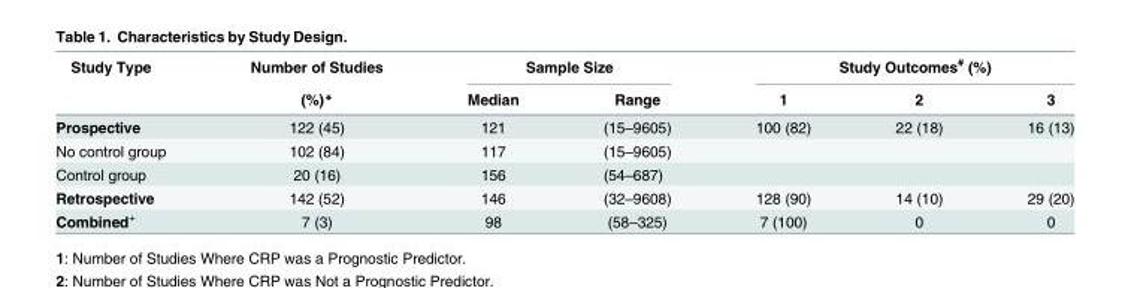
<table><thead><tr><td rowspan="2">Study Type</td><td rowspan="2">Number of Studies (%)*</td><td colspan="2">Sample Size</td><td colspan="3">Study Outcomes<sup>#</sup> (%)</td></tr><tr><td>Median</td><td>Range</td><td>1</td><td>2</td><td>3</td></tr></thead><tbody><tr><td>Prospective</td><td>122 (45)</td><td>121</td><td>(15–9605)</td><td>100 (82)</td><td>22 (18)</td><td>16 (13)</td></tr><tr><td>No control group</td><td>102 (84)</td><td>117</td><td>(15–9605)</td><td></td><td></td><td></td></tr><tr><td>Control group</td><td>20 (16)</td><td>156</td><td>(54–687)</td><td></td><td></td><td></td></tr><tr><td>Retrospective</td><td>142 (52)</td><td>146</td><td>(32–9608)</td><td>128 (90)</td><td>14 (10)</td><td>29 (20)</td></tr><tr><td>Combined<sup>+</sup></td><td>7 (3)</td><td>98</td><td>(58–325)</td><td>7 (100)</td><td>0</td><td>0</td></tr></tbody></table>